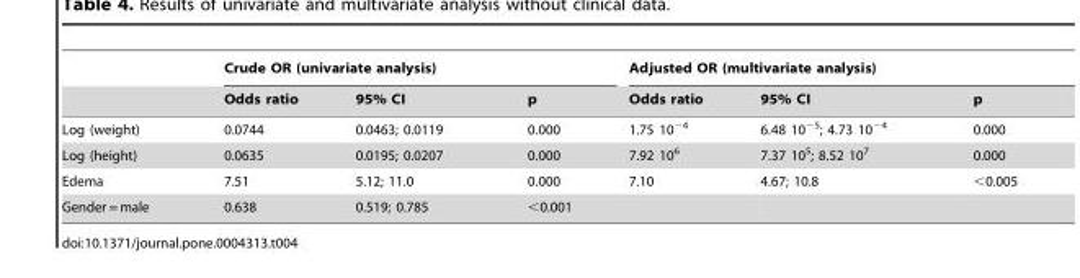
<table><thead><tr><td rowspan="2"></td><td colspan="3">Crude OR (univariate analysis)</td><td colspan="3">Adjusted OR (multivariate analysis)</td></tr><tr><td>Odds ratio</td><td>95% CI</td><td>p</td><td>Odds ratio</td><td>95% CI</td><td>p</td></tr></thead><tbody><tr><td>Log (weight)</td><td>0.0744</td><td>0.0463; 0.0119</td><td>0.000</td><td>1.75 10<sup>−4</sup></td><td>6.48 10<sup>−5</sup>; 4.73 10<sup>−4</sup></td><td>0.000</td></tr><tr><td>Log (height)</td><td>0.0635</td><td>0.0195; 0.0207</td><td>0.000</td><td>7.92 10<sup>6</sup></td><td>7.37 10<sup>5</sup>; 8.52 10<sup>7</sup></td><td>0.000</td></tr><tr><td>Edema</td><td>7.51</td><td>5.12; 11.0</td><td>0.000</td><td>7.10</td><td>4.67; 10.8</td><td>&lt;0.005</td></tr><tr><td>Gender = male</td><td>0.638</td><td>0.519; 0.785</td><td>&lt;0.001</td><td></td><td></td><td></td></tr></tbody></table>